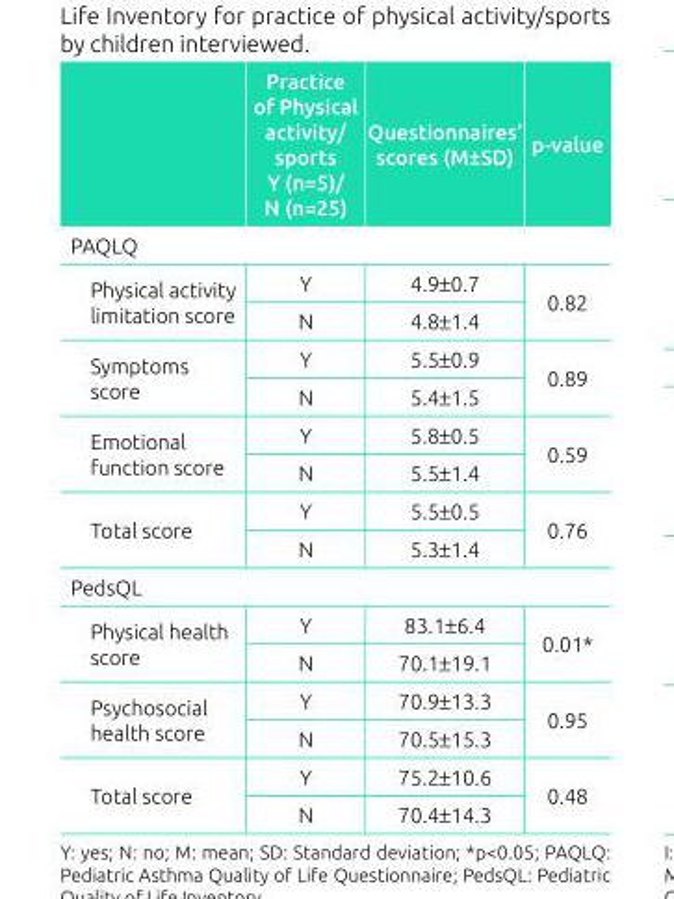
<table><thead><tr><td></td><td>Practice of Physical activity/ sports Y (n=5)/ N (n=25)</td><td>Questionnaires’ scores (M±SD)</td><td>p-value</td></tr></thead><tbody><tr><td colspan="4">PAQLQ</td></tr><tr><td rowspan="2">Physical activity limitation score</td><td>Y</td><td>4.9±0.7</td><td rowspan="2">0.82</td></tr><tr><td>N</td><td>4.8±1.4</td></tr><tr><td rowspan="2">Symptoms score</td><td>Y</td><td>5.5±0.9</td><td rowspan="2">0.89</td></tr><tr><td>N</td><td>5.4±1.5</td></tr><tr><td rowspan="2">Emotional function score</td><td>Y</td><td>5.8±0.5</td><td rowspan="2">0.59</td></tr><tr><td>N</td><td>5.5±1.4</td></tr><tr><td rowspan="2">Total score</td><td>Y</td><td>5.5±0.5</td><td rowspan="2">0.76</td></tr><tr><td>N</td><td>5.3±1.4</td></tr><tr><td colspan="4">PedsQL</td></tr><tr><td rowspan="2">Physical health score</td><td>Y</td><td>83.1±6.4</td><td rowspan="2">0.01*</td></tr><tr><td>N</td><td>70.1±19.1</td></tr><tr><td rowspan="2">Psychosocial health score</td><td>Y</td><td>70.9±13.3</td><td rowspan="2">0.95</td></tr><tr><td>N</td><td>70.5±15.3</td></tr><tr><td rowspan="2">Total score</td><td>Y</td><td>75.2±10.6</td><td rowspan="2">0.48</td></tr><tr><td>N</td><td>70.4±14.3</td></tr></tbody></table>